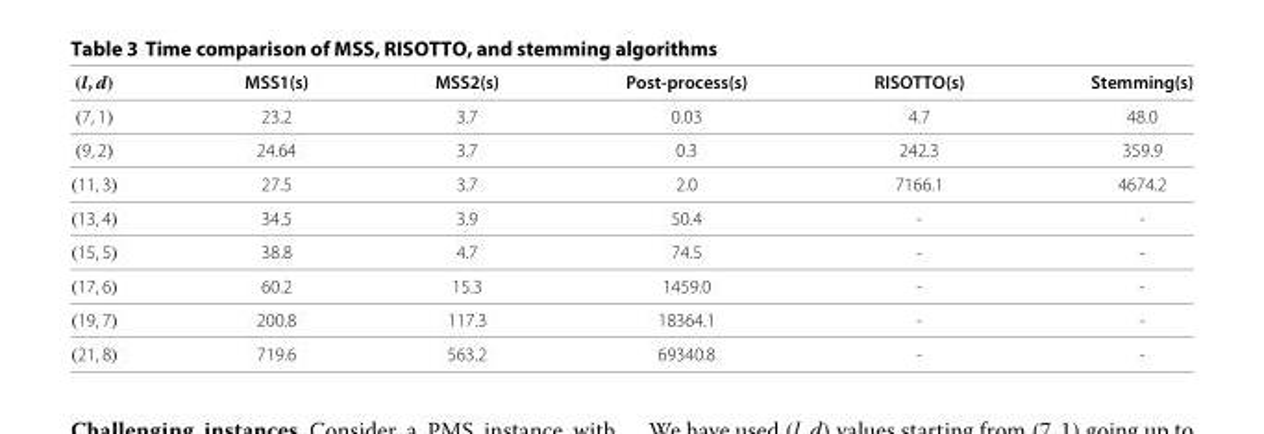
<table><thead><tr><td>(l, d)</td><td>MSS1(s)</td><td>MSS2(s)</td><td>Post-process(s)</td><td>RISOTTO(s)</td><td>Stemming(s)</td></tr></thead><tbody><tr><td>(7, 1)</td><td>23.2</td><td>3.7</td><td>0.03</td><td>4.7</td><td>48.0</td></tr><tr><td>(9, 2)</td><td>24.64</td><td>3.7</td><td>0.3</td><td>242.3</td><td>359.9</td></tr><tr><td>(11, 3)</td><td>27.5</td><td>3.7</td><td>2.0</td><td>7166.1</td><td>4674.2</td></tr><tr><td>(13, 4)</td><td>34.5</td><td>3.9</td><td>50.4</td><td>-</td><td>-</td></tr><tr><td>(15, 5)</td><td>38.8</td><td>4.7</td><td>74.5</td><td>-</td><td>-</td></tr><tr><td>(17, 6)</td><td>60.2</td><td>15.3</td><td>1459.0</td><td>-</td><td>-</td></tr><tr><td>(19, 7)</td><td>200.8</td><td>117.3</td><td>18364.1</td><td>-</td><td>-</td></tr><tr><td>(21, 8)</td><td>719.6</td><td>563.2</td><td>69340.8</td><td>-</td><td>-</td></tr></tbody></table>